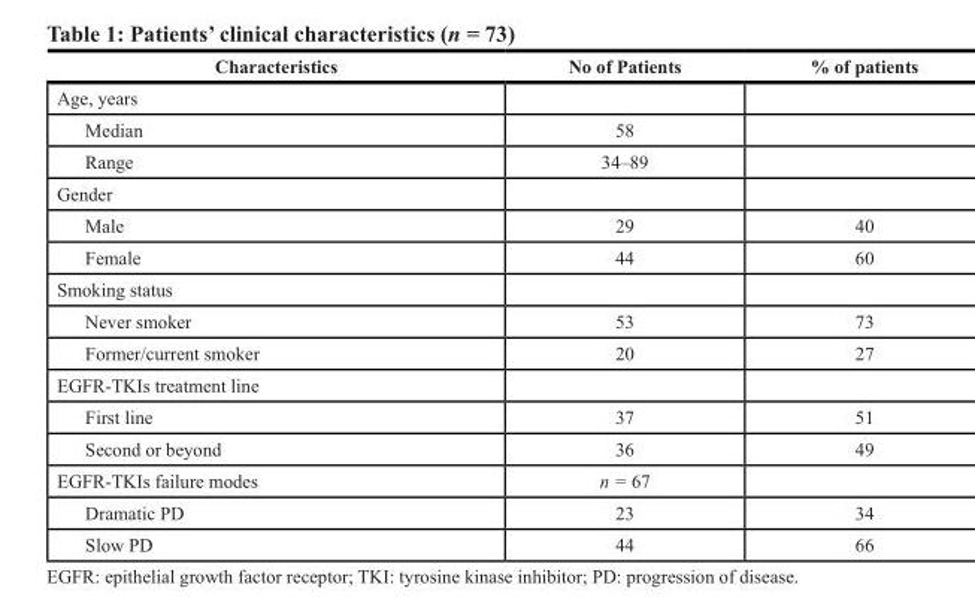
<table><thead><tr><td>Characteristics</td><td>No of Patients</td><td>% of patients</td></tr></thead><tbody><tr><td colspan="3">Age, years</td></tr><tr><td>Median</td><td>58</td><td></td></tr><tr><td>Range</td><td>34–89</td><td></td></tr><tr><td colspan="3">Gender</td></tr><tr><td>Male</td><td>29</td><td>40</td></tr><tr><td>Female</td><td>44</td><td>60</td></tr><tr><td colspan="3">Smoking status</td></tr><tr><td>Never smoker</td><td>53</td><td>73</td></tr><tr><td>Former/current smoker</td><td>20</td><td>27</td></tr><tr><td colspan="3">EGFR-TKIs treatment line</td></tr><tr><td>First line</td><td>37</td><td>51</td></tr><tr><td>Second or beyond</td><td>36</td><td>49</td></tr><tr><td>EGFR-TKIs failure modes</td><td>n = 67</td><td></td></tr><tr><td>Dramatic PD</td><td>23</td><td>34</td></tr><tr><td>Slow PD</td><td>44</td><td>66</td></tr></tbody></table>